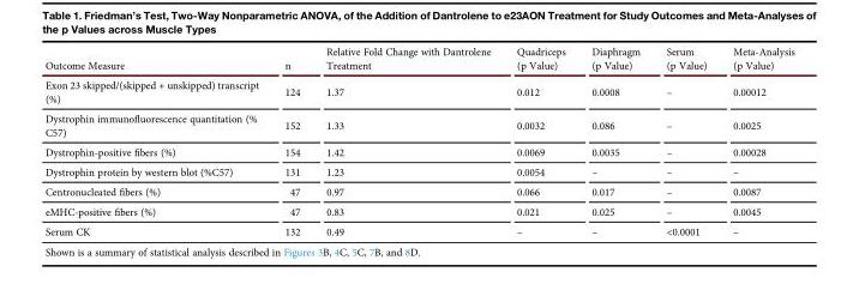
<table><thead><tr><td>Outcome Measure</td><td>n</td><td>Relative Fold Change with Dantrolene Treatment</td><td>Quadriceps (p Value)</td><td>Diaphragm (p Value)</td><td>Serum (p Value)</td><td>Meta-Analysis (p Value)</td></tr></thead><tbody><tr><td>Exon 23 skipped/(skipped + unskipped) transcript (%)</td><td>124</td><td>1.37</td><td>0.012</td><td>0.0008</td><td>–</td><td>0.00012</td></tr><tr><td>Dystrophin immunofluorescence quantitation (% C57)</td><td>152</td><td>1.33</td><td>0.0032</td><td>0.086</td><td>–</td><td>0.0025</td></tr><tr><td>Dystrophin-positive fibers (%)</td><td>154</td><td>1.42</td><td>0.0069</td><td>0.0035</td><td>–</td><td>0.00028</td></tr><tr><td>Dystrophin protein by western blot (%C57)</td><td>131</td><td>1.23</td><td>0.0054</td><td>–</td><td>–</td><td>–</td></tr><tr><td>Centronucleated fibers (%)</td><td>47</td><td>0.97</td><td>0.066</td><td>0.017</td><td>–</td><td>0.0087</td></tr><tr><td>eMHC-positive fibers (%)</td><td>47</td><td>0.83</td><td>0.021</td><td>0.025</td><td>–</td><td>0.0045</td></tr><tr><td>Serum CK</td><td>132</td><td>0.49</td><td>–</td><td>–</td><td>&lt;0.0001</td><td>–</td></tr></tbody></table>